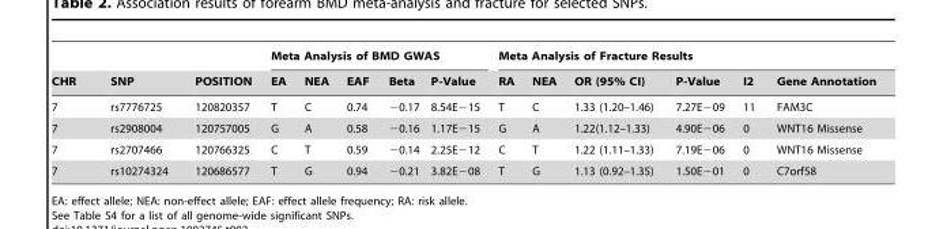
<table><thead><tr><td rowspan="2">CHR</td><td rowspan="2">SNP</td><td rowspan="2">POSITION</td><td colspan="5">Meta Analysis of BMD GWAS</td><td colspan="6">Meta Analysis of Fracture Results</td></tr><tr><td>EA</td><td>NEA</td><td>EAF</td><td>Beta</td><td>P-Value</td><td>RA</td><td>NEA</td><td>OR (95% CI)</td><td>P-Value</td><td>I2</td><td>Gene Annotation</td></tr></thead><tbody><tr><td>7</td><td>rs7776725</td><td>120820357</td><td>T</td><td>C</td><td>0.74</td><td>−0.17</td><td>8.54E−15</td><td>T</td><td>C</td><td>1.33 (1.20–1.46)</td><td>7.27E−09</td><td>11</td><td>FAM3C</td></tr><tr><td>7</td><td>rs2908004</td><td>120757005</td><td>G</td><td>A</td><td>0.58</td><td>−0.16</td><td>1.17E−15</td><td>G</td><td>A</td><td>1.22(1.12–1.33)</td><td>4.90E−06</td><td>0</td><td>WNT16 Missense</td></tr><tr><td>7</td><td>rs2707466</td><td>120766325</td><td>C</td><td>T</td><td>0.59</td><td>−0.14</td><td>2.25E−12</td><td>C</td><td>T</td><td>1.22 (1.11–1.33)</td><td>7.19E−06</td><td>0</td><td>WNT16 Missense</td></tr><tr><td>7</td><td>rs10274324</td><td>120686577</td><td>T</td><td>G</td><td>0.94</td><td>−0.21</td><td>3.82E−08</td><td>T</td><td>G</td><td>1.13 (0.92–1.35)</td><td>1.50E−01</td><td>0</td><td>C7orf58</td></tr></tbody></table>